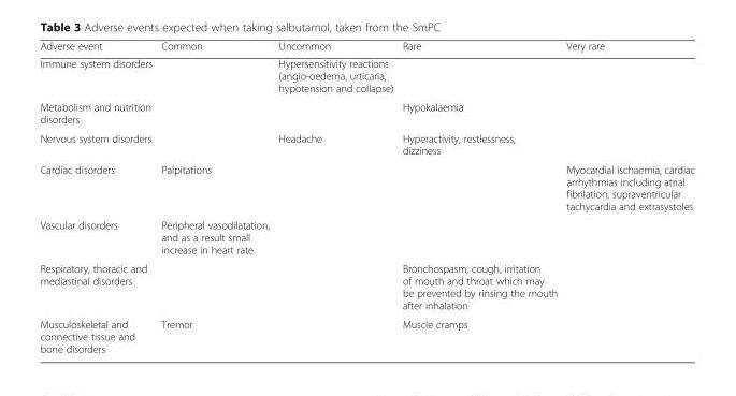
<table><thead><tr><td>Adverse event</td><td>Common</td><td>Uncommon</td><td>Rare</td><td>Very rare</td></tr></thead><tbody><tr><td>Immune system disorders</td><td></td><td>Hypersensitivity reactions (angio-oedema, urticaria, hypotension and collapse)</td><td></td><td></td></tr><tr><td>Metabolism and nutrition disorders</td><td></td><td></td><td>Hypokalaemia</td><td></td></tr><tr><td>Nervous system disorders</td><td></td><td>Headache</td><td>Hyperactivity, restlessness, dizziness</td><td></td></tr><tr><td>Cardiac disorders</td><td>Palpitations</td><td></td><td></td><td>Myocardial ischaemia, cardiac arrhythmias including atrial fibrilation, supraventricular tachycardia and extrasystoles</td></tr><tr><td>Vascular disorders</td><td>Peripheral vasodilatation, and as a result small increase in heart rate</td><td></td><td></td><td></td></tr><tr><td>Respiratory, thoracic and mediastinal disorders</td><td></td><td></td><td>Bronchospasm, cough, irritation of mouth and throat which may be prevented by rinsing the mouth after inhalation</td><td></td></tr><tr><td>Musculoskeletal and connective tissue and bone disorders</td><td>Tremor</td><td></td><td>Muscle cramps</td><td></td></tr></tbody></table>